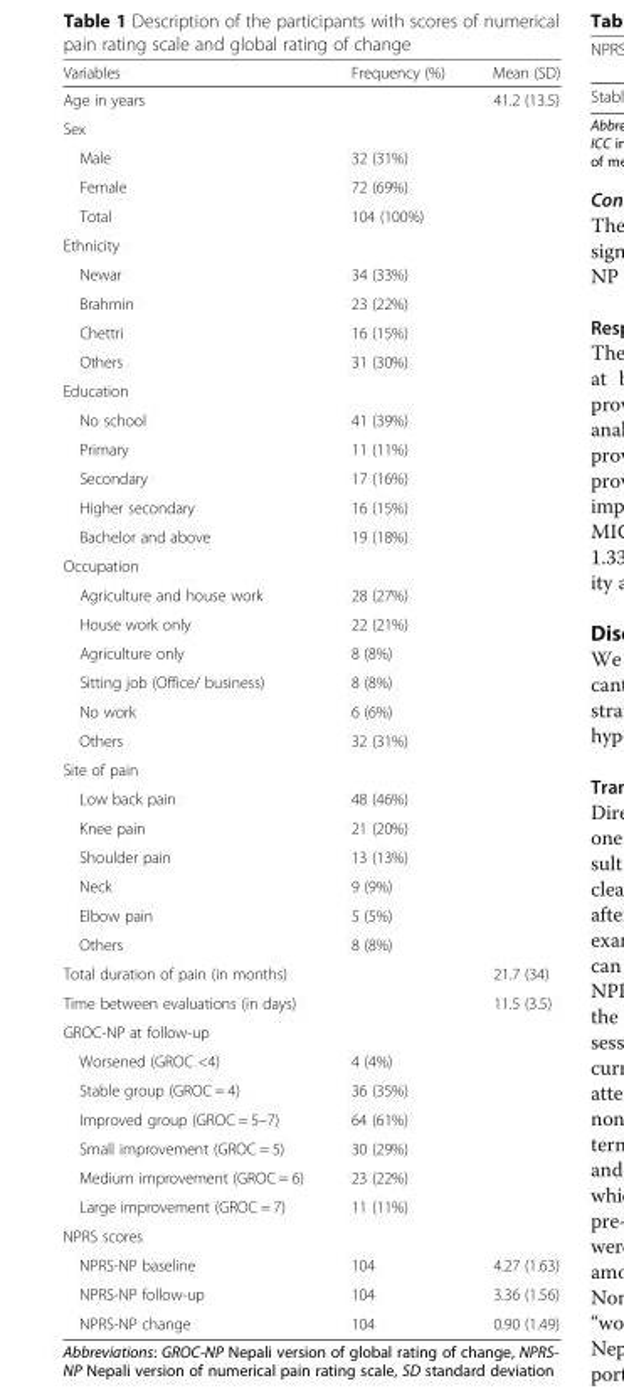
<table><thead><tr><td>Variables</td><td>Frequency (%)</td><td>Mean (SD)</td></tr></thead><tbody><tr><td>Age in years</td><td></td><td>41.2 (13.5)</td></tr><tr><td colspan="3">Sex</td></tr><tr><td>Male</td><td>32 (31%)</td><td></td></tr><tr><td>Female</td><td>72 (69%)</td><td></td></tr><tr><td>Total</td><td>104 (100%)</td><td></td></tr><tr><td colspan="3">Ethnicity</td></tr><tr><td>Newar</td><td>34 (33%)</td><td></td></tr><tr><td>Brahmin</td><td>23 (22%)</td><td></td></tr><tr><td>Chettri</td><td>16 (15%)</td><td></td></tr><tr><td>Others</td><td>31 (30%)</td><td></td></tr><tr><td colspan="3">Education</td></tr><tr><td>No school</td><td>41 (39%)</td><td></td></tr><tr><td>Primary</td><td>11 (11%)</td><td></td></tr><tr><td>Secondary</td><td>17 (16%)</td><td></td></tr><tr><td>Higher secondary</td><td>16 (15%)</td><td></td></tr><tr><td>Bachelor and above</td><td>19 (18%)</td><td></td></tr><tr><td colspan="3">Occupation</td></tr><tr><td>Agriculture and house work</td><td>28 (27%)</td><td></td></tr><tr><td>House work only</td><td>22 (21%)</td><td></td></tr><tr><td>Agriculture only</td><td>8 (8%)</td><td></td></tr><tr><td>Sitting job (Office/ business)</td><td>8 (8%)</td><td></td></tr><tr><td>No work</td><td>6 (6%)</td><td></td></tr><tr><td>Others</td><td>32 (31%)</td><td></td></tr><tr><td colspan="3">Site of pain</td></tr><tr><td>Low back pain</td><td>48 (46%)</td><td></td></tr><tr><td>Knee pain</td><td>21 (20%)</td><td></td></tr><tr><td>Shoulder pain</td><td>13 (13%)</td><td></td></tr><tr><td>Neck</td><td>9 (9%)</td><td></td></tr><tr><td>Elbow pain</td><td>5 (5%)</td><td></td></tr><tr><td>Others</td><td>8 (8%)</td><td></td></tr><tr><td>Total duration of pain (in months)</td><td></td><td>21.7 (34)</td></tr><tr><td>Time between evaluations (in days)</td><td></td><td>11.5 (3.5)</td></tr><tr><td colspan="3">GROC-NP at follow-up</td></tr><tr><td>Worsened (GROC &lt;4)</td><td>4 (4%)</td><td></td></tr><tr><td>Stable group (GROC = 4)</td><td>36 (35%)</td><td></td></tr><tr><td>Improved group (GROC = 5–7)</td><td>64 (61%)</td><td></td></tr><tr><td>Small improvement (GROC = 5)</td><td>30 (29%)</td><td></td></tr><tr><td>Medium improvement (GROC = 6)</td><td>23 (22%)</td><td></td></tr><tr><td>Large improvement (GROC = 7)</td><td>11 (11%)</td><td></td></tr><tr><td colspan="3">NPRS scores</td></tr><tr><td>NPRS-NP baseline</td><td>104</td><td>4.27 (1.63)</td></tr><tr><td>NPRS-NP follow-up</td><td>104</td><td>3.36 (1.56)</td></tr><tr><td>NPRS-NP change</td><td>104</td><td>0.90 (1.49)</td></tr></tbody></table>